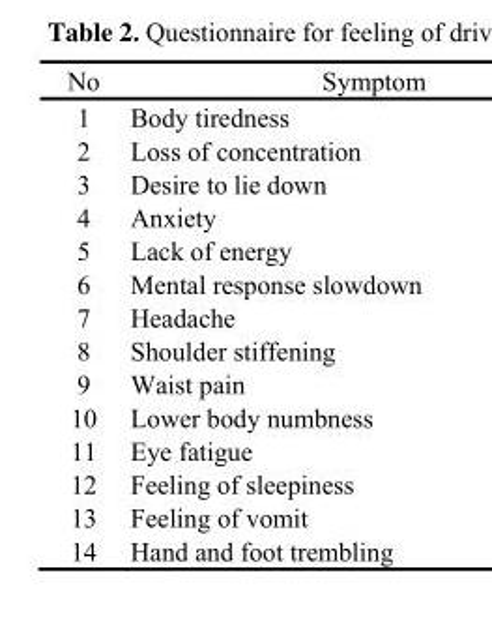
<table><thead><tr><td>No</td><td>Symptom</td></tr></thead><tbody><tr><td>1</td><td>Body tiredness</td></tr><tr><td>2</td><td>Loss of concentration</td></tr><tr><td>3</td><td>Desire to lie down</td></tr><tr><td>4</td><td>Anxiety</td></tr><tr><td>5</td><td>Lack of energy</td></tr><tr><td>6</td><td>Mental response slowdown</td></tr><tr><td>7</td><td>Headache</td></tr><tr><td>8</td><td>Shoulder stiffening</td></tr><tr><td>9</td><td>Waist pain</td></tr><tr><td>10</td><td>Lower body numbness</td></tr><tr><td>11</td><td>Eye fatigue</td></tr><tr><td>12</td><td>Feeling of sleepiness</td></tr><tr><td>13</td><td>Feeling of vomit</td></tr><tr><td>14</td><td>Hand and foot trembling</td></tr></tbody></table>